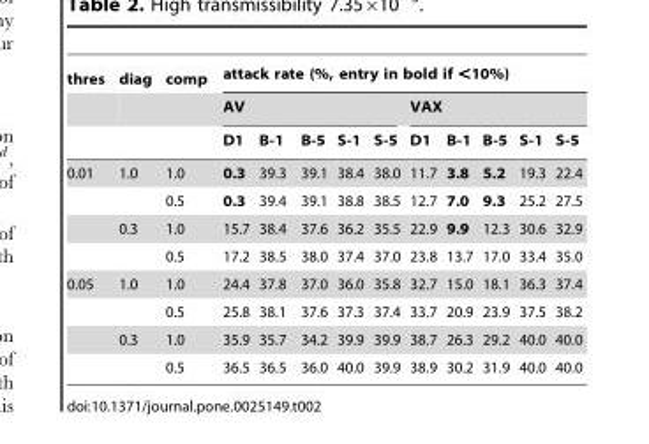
<table><thead><tr><td rowspan="3">thres</td><td rowspan="3">diag</td><td rowspan="3">comp</td><td colspan="10">attack rate (%, entry in bold if &lt;10%)</td></tr><tr><td colspan="5">AV</td><td colspan="5">VAX</td></tr><tr><td>D1</td><td>B-1</td><td>B-5</td><td>S-1</td><td>S-5</td><td>D1</td><td>B-1</td><td>B-5</td><td>S-1</td><td>S-5</td></tr></thead><tbody><tr><td rowspan="4">0.01</td><td>1.0</td><td>1.0</td><td>0.3</td><td>39.3</td><td>39.1</td><td>38.4</td><td>38.0</td><td>11.7</td><td>3.8</td><td>5.2</td><td>19.3</td><td>22.4</td></tr><tr><td></td><td>0.5</td><td>0.3</td><td>39.4</td><td>39.1</td><td>38.8</td><td>38.5</td><td>12.7</td><td>7.0</td><td>9.3</td><td>25.2</td><td>27.5</td></tr><tr><td>0.3</td><td>1.0</td><td>15.7</td><td>38.4</td><td>37.6</td><td>36.2</td><td>35.5</td><td>22.9</td><td>9.9</td><td>12.3</td><td>30.6</td><td>32.9</td></tr><tr><td></td><td>0.5</td><td>17.2</td><td>38.5</td><td>38.0</td><td>37.4</td><td>37.0</td><td>23.8</td><td>13.7</td><td>17.0</td><td>33.4</td><td>35.0</td></tr><tr><td rowspan="4">0.05</td><td>1.0</td><td>1.0</td><td>24.4</td><td>37.8</td><td>37.0</td><td>36.0</td><td>35.8</td><td>32.7</td><td>15.0</td><td>18.1</td><td>36.3</td><td>37.4</td></tr><tr><td></td><td>0.5</td><td>25.8</td><td>38.1</td><td>37.6</td><td>37.3</td><td>37.4</td><td>33.7</td><td>20.9</td><td>23.9</td><td>37.5</td><td>38.2</td></tr><tr><td>0.3</td><td>1.0</td><td>35.9</td><td>35.7</td><td>34.2</td><td>39.9</td><td>39.9</td><td>38.7</td><td>26.3</td><td>29.2</td><td>40.0</td><td>40.0</td></tr><tr><td></td><td>0.5</td><td>36.5</td><td>36.5</td><td>36.0</td><td>40.0</td><td>39.9</td><td>38.9</td><td>30.2</td><td>31.9</td><td>40.0</td><td>40.0</td></tr></tbody></table>